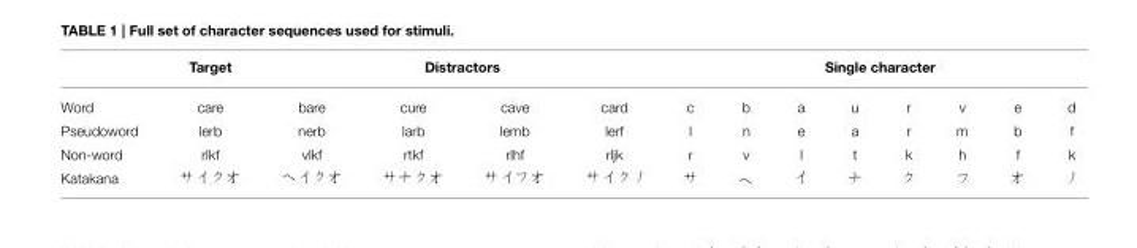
<table><thead><tr><td rowspan="2">Word</td><td rowspan="2">Target care</td><td colspan="4">Distractors</td><td colspan="8">Single character</td></tr><tr><td>bare</td><td>cure</td><td>cave</td><td>card</td><td>c</td><td>b</td><td>a</td><td>u</td><td>r</td><td>v</td><td>e</td><td>d</td></tr></thead><tbody><tr><td>Pseudoword</td><td>lerb</td><td>nerb</td><td>larb</td><td>lemb</td><td>lerf</td><td>l</td><td>n</td><td>e</td><td>a</td><td>r</td><td>m</td><td>b</td><td>f</td></tr><tr><td>Non-word</td><td>rlkf</td><td>vlkf</td><td>rtkf</td><td>rlhf</td><td>rljk</td><td>r</td><td>v</td><td>l</td><td>t</td><td>k</td><td>h</td><td>f</td><td>k</td></tr><tr><td>Katakana</td><td></td><td></td><td></td><td></td><td></td><td></td><td></td><td></td><td></td><td></td><td></td><td></td><td></td></tr></tbody></table>